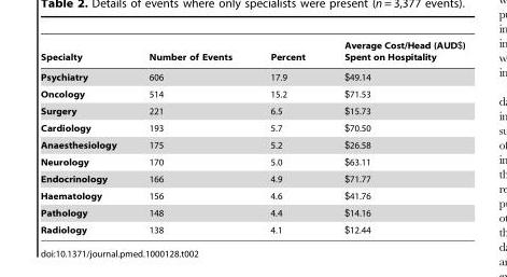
<table><thead><tr><td>Specialty</td><td>Number of Events</td><td>Percent</td><td>Average Cost/Head (AUD$) Spent on Hospitality</td></tr></thead><tbody><tr><td>Psychiatry</td><td>606</td><td>17.9</td><td>$49.14</td></tr><tr><td>Oncology</td><td>514</td><td>15.2</td><td>$71.53</td></tr><tr><td>Surgery</td><td>221</td><td>6.5</td><td>$15.73</td></tr><tr><td>Cardiology</td><td>193</td><td>5.7</td><td>$70.50</td></tr><tr><td>Anaesthesiology</td><td>175</td><td>5.2</td><td>$26.58</td></tr><tr><td>Neurology</td><td>170</td><td>5.0</td><td>$63.11</td></tr><tr><td>Endocrinology</td><td>166</td><td>4.9</td><td>$71.77</td></tr><tr><td>Haematology</td><td>156</td><td>4.6</td><td>$41.76</td></tr><tr><td>Pathology</td><td>148</td><td>4.4</td><td>$14.16</td></tr><tr><td>Radiology</td><td>138</td><td>4.1</td><td>$12.44</td></tr></tbody></table>